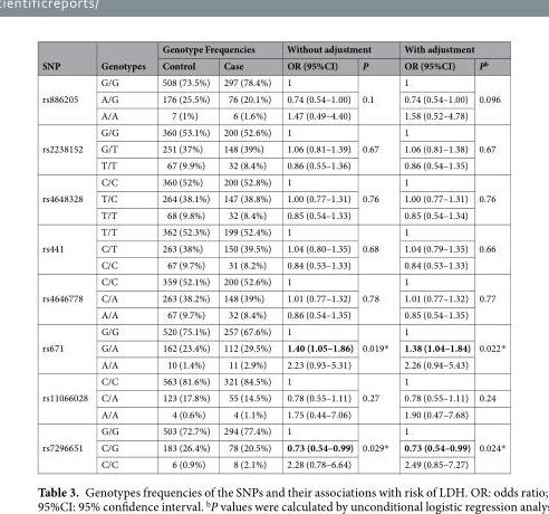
<table><thead><tr><td rowspan="2">SNP</td><td rowspan="2">Genotypes</td><td colspan="2">Genotype Frequencies</td><td colspan="2">Without adjustment</td><td colspan="2">With adjustment</td></tr><tr><td>Control</td><td>Case</td><td>OR (95%CI)</td><td>P</td><td>OR (95%CI)</td><td>P<sup>b</sup></td></tr></thead><tbody><tr><td rowspan="3">rs886205</td><td>G/G</td><td>508 (73.5%)</td><td>297 (78.4%)</td><td>1</td><td rowspan="3">0.1</td><td>1</td><td rowspan="3">0.096</td></tr><tr><td>A/G</td><td>176 (25.5%)</td><td>76 (20.1%)</td><td>0.74 (0.54–1.00)</td><td>0.74 (0.54–1.00)</td></tr><tr><td>A/A</td><td>7 (1%)</td><td>6 (1.6%)</td><td>1.47 (0.49–4.40)</td><td>1.58 (0.52–4.78)</td></tr><tr><td rowspan="3">rs2238152</td><td>G/G</td><td>360 (53.1%)</td><td>200 (52.6%)</td><td>1</td><td rowspan="3">0.67</td><td>1</td><td rowspan="3">0.67</td></tr><tr><td>G/T</td><td>251 (37%)</td><td>148 (39%)</td><td>1.06 (0.81–1.39)</td><td>1.06 (0.81–1.38)</td></tr><tr><td>T/T</td><td>67 (9.9%)</td><td>32 (8.4%)</td><td>0.86 (0.55–1.36)</td><td>0.86 (0.54–1.35)</td></tr><tr><td rowspan="3">rs4648328</td><td>C/C</td><td>360 (52%)</td><td>200 (52.8%)</td><td>1</td><td rowspan="3">0.76</td><td>1</td><td rowspan="3">0.76</td></tr><tr><td>T/C</td><td>264 (38.1%)</td><td>147 (38.8%)</td><td>1.00 (0.77–1.31)</td><td>1.00 (0.77–1.31)</td></tr><tr><td>T/T</td><td>68 (9.8%)</td><td>32 (8.4%)</td><td>0.85 (0.54–1.33)</td><td>0.85 (0.54–1.34)</td></tr><tr><td rowspan="3">rs441</td><td>T/T</td><td>362 (52.3%)</td><td>199 (52.4%)</td><td>1</td><td rowspan="3">0.68</td><td>1</td><td rowspan="3">0.66</td></tr><tr><td>C/T</td><td>263 (38%)</td><td>150 (39.5%)</td><td>1.04 (0.80–1.35)</td><td>1.04 (0.79–1.35)</td></tr><tr><td>C/C</td><td>67 (9.7%)</td><td>31 (8.2%)</td><td>0.84 (0.53–1.33)</td><td>0.84 (0.53–1.33)</td></tr><tr><td rowspan="3">rs4646778</td><td>C/C</td><td>359 (52.1%)</td><td>200 (52.6%)</td><td>1</td><td rowspan="3">0.78</td><td>1</td><td rowspan="3">0.77</td></tr><tr><td>C/A</td><td>263 (38.2%)</td><td>148 (39%)</td><td>1.01 (0.77–1.32)</td><td>1.01 (0.77–1.32)</td></tr><tr><td>A/A</td><td>67 (9.7%)</td><td>32 (8.4%)</td><td>0.86 (0.54–1.35)</td><td>0.85 (0.54–1.35)</td></tr><tr><td rowspan="3">rs671</td><td>G/G</td><td>520 (75.1%)</td><td>257 (67.6%)</td><td>1</td><td rowspan="3">0.019*</td><td>1</td><td rowspan="3">0.022*</td></tr><tr><td>G/A</td><td>162 (23.4%)</td><td>112 (29.5%)</td><td>1.40 (1.05–1.86)</td><td>1.38 (1.04–1.84)</td></tr><tr><td>A/A</td><td>10 (1.4%)</td><td>11 (2.9%)</td><td>2.23 (0.93–5.31)</td><td>2.26 (0.94–5.43)</td></tr><tr><td rowspan="3">rs11066028</td><td>C/C</td><td>563 (81.6%)</td><td>321 (84.5%)</td><td>1</td><td rowspan="3">0.27</td><td>1</td><td></td></tr><tr><td>C/A</td><td>123 (17.8%)</td><td>55 (14.5%)</td><td>0.78 (0.55–1.11)</td><td>0.78 (0.55–1.11)</td><td>0.24</td></tr><tr><td>A/A</td><td>4 (0.6%)</td><td>4 (1.1%)</td><td>1.75 (0.44–7.06)</td><td>1.90 (0.47–7.68)</td><td></td></tr><tr><td rowspan="3">rs7296651</td><td>G/G</td><td>503 (72.7%)</td><td>294 (77.4%)</td><td>1</td><td rowspan="3">0.029*</td><td>1</td><td rowspan="3">0.024*</td></tr><tr><td>C/G</td><td>183 (26.4%)</td><td>78 (20.5%)</td><td>0.73 (0.54–0.99)</td><td>0.73 (0.54–0.99)</td></tr><tr><td>C/C</td><td>6 (0.9%)</td><td>8 (2.1%)</td><td>2.28 (0.78–6.64)</td><td>2.49 (0.85–7.27)</td></tr></tbody></table>